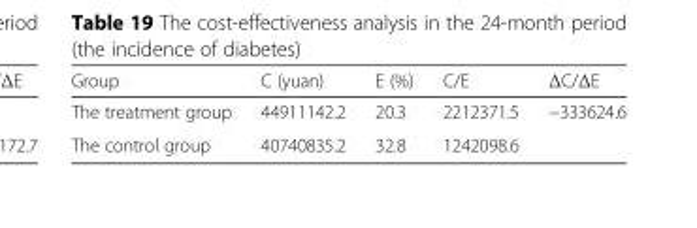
<table><thead><tr><td>Group</td><td>C (yuan)</td><td>E (%)</td><td>C/E</td><td>ΔC/ΔE</td></tr></thead><tbody><tr><td>The treatment group</td><td>44911142.2</td><td>20.3</td><td>2212371.5</td><td>−333624.6</td></tr><tr><td>The control group</td><td>40740835.2</td><td>32.8</td><td>1242098.6</td><td></td></tr></tbody></table>